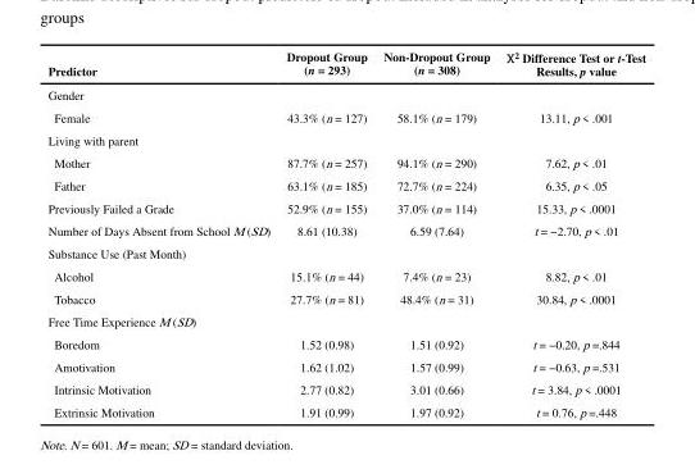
<table><thead><tr><td>Predictor</td><td>Dropout Group (n = 293)</td><td>Non-Dropout Group (n = 308)</td><td>Χ<sup>2</sup> Difference Test or t-Test Results, p value</td></tr></thead><tbody><tr><td colspan="4">Gender</td></tr><tr><td>Female</td><td>43.3% (n = 127)</td><td>58.1% (n = 179)</td><td>13.11, p &lt; .001</td></tr><tr><td colspan="4">Living with parent</td></tr><tr><td>Mother</td><td>87.7% (n = 257)</td><td>94.1% (n = 290)</td><td>7.62, p &lt; .01</td></tr><tr><td>Father</td><td>63.1% (n = 185)</td><td>72.7% (n = 224)</td><td>6.35, p &lt; .05</td></tr><tr><td>Previously Failed a Grade</td><td>52.9% (n = 155)</td><td>37.0% (n = 114)</td><td>15.33, p &lt; .0001</td></tr><tr><td>Number of Days Absent from School M (SD)</td><td>8.61 (10.38)</td><td>6.59 (7.64)</td><td>t = −2.70, p &lt; .01</td></tr><tr><td colspan="4">Substance Use (Past Month)</td></tr><tr><td>Alcohol</td><td>15.1% (n = 44)</td><td>7.4% (n = 23)</td><td>8.82, p &lt; .01</td></tr><tr><td>Tobacco</td><td>27.7% (n = 81)</td><td>48.4% (n = 31)</td><td>30.84, p &lt; .0001</td></tr><tr><td colspan="4">Free Time Experience M (SD)</td></tr><tr><td>Boredom</td><td>1.52 (0.98)</td><td>1.51 (0.92)</td><td>t = −0.20, p =.844</td></tr><tr><td>Amotivation</td><td>1.62 (1.02)</td><td>1.57 (0.99)</td><td>t = −0.63, p =.531</td></tr><tr><td>Intrinsic Motivation</td><td>2.77 (0.82)</td><td>3.01 (0.66)</td><td>t = 3.84, p &lt; .0001</td></tr><tr><td>Extrinsic Motivation</td><td>1.91 (0.99)</td><td>1.97 (0.92)</td><td>t = 0.76, p =.448</td></tr></tbody></table>